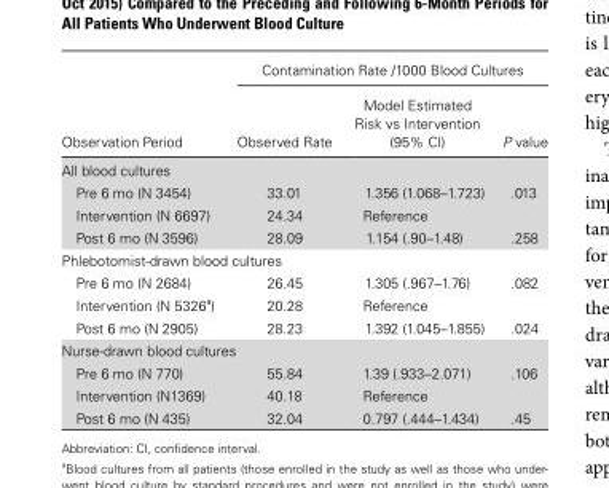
<table><thead><tr><td rowspan="2">Observation Period</td><td colspan="3">Contamination Rate /1000 Blood Cultures</td></tr><tr><td>Observed Rate</td><td>Model Estimated Risk vs Intervention (95% CI)</td><td>P value</td></tr></thead><tbody><tr><td colspan="4">All blood cultures</td></tr><tr><td>Pre 6 mo (N 3454)</td><td>33.01</td><td>1.356 (1.068–1.723)</td><td>.013</td></tr><tr><td>Intervention (N 6697)</td><td>24.34</td><td>Reference</td><td></td></tr><tr><td>Post 6 mo (N 3596)</td><td>28.09</td><td>1.154 (.90–1.48)</td><td>.258</td></tr><tr><td colspan="4">Phlebotomist-drawn blood cultures</td></tr><tr><td>Pre 6 mo (N 2684)</td><td>26.45</td><td>1.305 (.967–1.76)</td><td>.082</td></tr><tr><td>Intervention (N 5326<sup>a</sup>)</td><td>20.28</td><td>Reference</td><td></td></tr><tr><td>Post 6 mo (N 2905)</td><td>28.23</td><td>1.392 (1.045–1.855)</td><td>.024</td></tr><tr><td colspan="4">Nurse-drawn blood cultures</td></tr><tr><td>Pre 6 mo (N 770)</td><td>55.84</td><td>1.39 (.933–2.071)</td><td>.106</td></tr><tr><td>Intervention (N1369)</td><td>40.18</td><td>Reference</td><td></td></tr><tr><td>Post 6 mo (N 435)</td><td>32.04</td><td>0.797 (.444–1.434)</td><td>.45</td></tr></tbody></table>